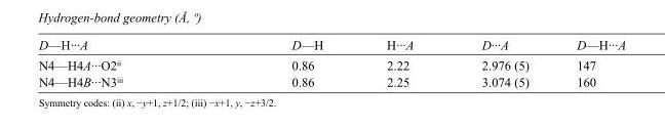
<table><tbody><tr><td>D—H···A</td><td>D—H</td><td>H···A</td><td>D···A</td><td>D—H···A</td></tr><tr><td>N4—H4A···O2<sup>ii</sup></td><td>0.86</td><td>2.22</td><td>2.976 (5)</td><td>147</td></tr><tr><td>N4—H4B···N3<sup>iii</sup></td><td>0.86</td><td>2.25</td><td>3.074 (5)</td><td>160</td></tr></tbody></table>